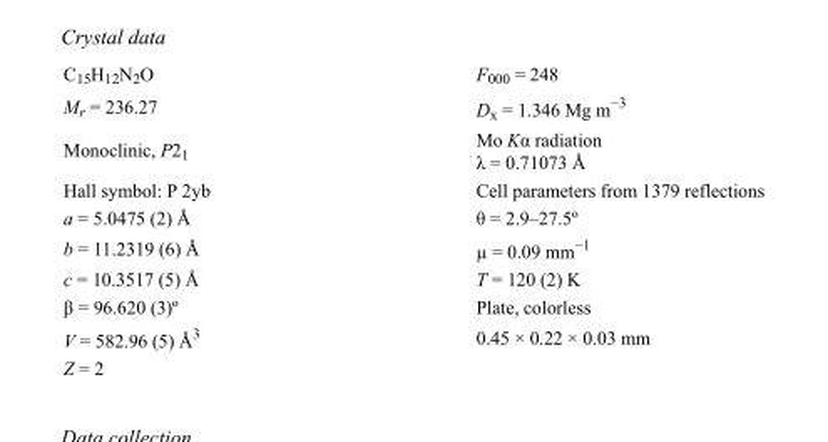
<table><tbody><tr><td>C<sub>15</sub>H<sub>12</sub>N<sub>2</sub>O</td><td>F<sub>000</sub> = 248</td></tr><tr><td>M<sub>r</sub> = 236.27</td><td>D<sub>x</sub> = 1.346 Mg m<sup>−3</sup></td></tr><tr><td>Monoclinic, P2<sub>1</sub></td><td>Mo Kα radiation λ = 0.71073 Å</td></tr><tr><td>Hall symbol: P 2yb</td><td>Cell parameters from 1379 reflections</td></tr><tr><td>a = 5.0475 (2) Å</td><td>θ = 2.9–27.5º</td></tr><tr><td>b = 11.2319 (6) Å</td><td>µ = 0.09 mm<sup>−1</sup></td></tr><tr><td>c = 10.3517 (5) Å</td><td>T = 120 (2) K</td></tr><tr><td>β = 96.620 (3)º</td><td>Plate, colorless</td></tr><tr><td>V = 582.96 (5) Å<sup>3</sup></td><td>0.45 × 0.22 × 0.03 mm</td></tr><tr><td>Z = 2</td><td></td></tr></tbody></table>